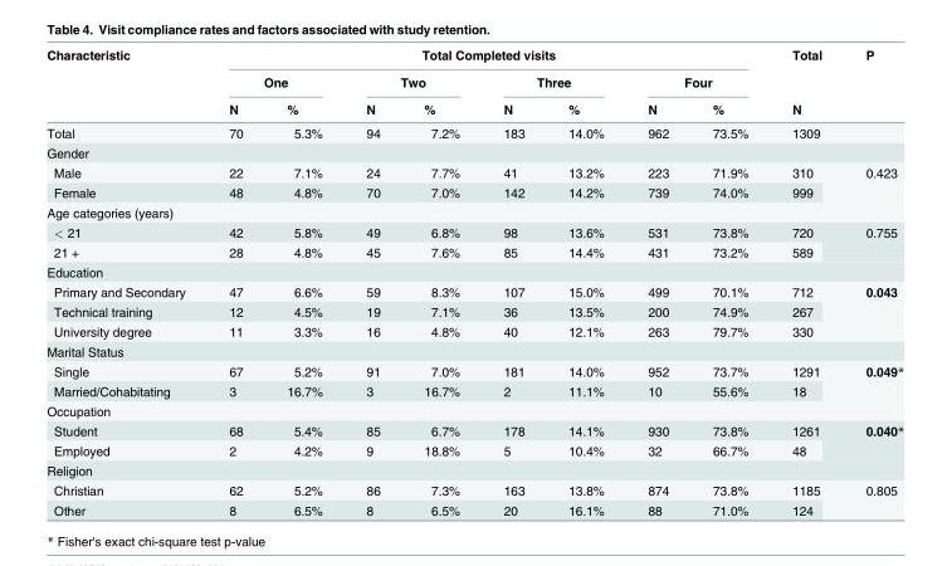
<table><thead><tr><td rowspan="3">Characteristic</td><td colspan="8">Total Completed visits</td><td rowspan="3">Total N</td><td rowspan="3">P</td></tr><tr><td colspan="2">One</td><td colspan="2">Two</td><td colspan="2">Three</td><td colspan="2">Four</td></tr><tr><td>N</td><td>%</td><td>N</td><td>%</td><td>N</td><td>%</td><td>N</td><td>%</td></tr></thead><tbody><tr><td>Total</td><td>70</td><td>5.3%</td><td>94</td><td>7.2%</td><td>183</td><td>14.0%</td><td>962</td><td>73.5%</td><td>1309</td><td></td></tr><tr><td colspan="11">Gender</td></tr><tr><td>Male</td><td>22</td><td>7.1%</td><td>24</td><td>7.7%</td><td>41</td><td>13.2%</td><td>223</td><td>71.9%</td><td>310</td><td rowspan="2">0.423</td></tr><tr><td>Female</td><td>48</td><td>4.8%</td><td>70</td><td>7.0%</td><td>142</td><td>14.2%</td><td>739</td><td>74.0%</td><td>999</td></tr><tr><td colspan="11">Age categories (years)</td></tr><tr><td>&lt; 21</td><td>42</td><td>5.8%</td><td>49</td><td>6.8%</td><td>98</td><td>13.6%</td><td>531</td><td>73.8%</td><td>720</td><td rowspan="2">0.755</td></tr><tr><td>21 +</td><td>28</td><td>4.8%</td><td>45</td><td>7.6%</td><td>85</td><td>14.4%</td><td>431</td><td>73.2%</td><td>589</td></tr><tr><td colspan="11">Education</td></tr><tr><td>Primary and Secondary</td><td>47</td><td>6.6%</td><td>59</td><td>8.3%</td><td>107</td><td>15.0%</td><td>499</td><td>70.1%</td><td>712</td><td rowspan="3">0.043</td></tr><tr><td>Technical training</td><td>12</td><td>4.5%</td><td>19</td><td>7.1%</td><td>36</td><td>13.5%</td><td>200</td><td>74.9%</td><td>267</td></tr><tr><td>University degree</td><td>11</td><td>3.3%</td><td>16</td><td>4.8%</td><td>40</td><td>12.1%</td><td>263</td><td>79.7%</td><td>330</td></tr><tr><td colspan="11">Marital Status</td></tr><tr><td>Single</td><td>67</td><td>5.2%</td><td>91</td><td>7.0%</td><td>181</td><td>14.0%</td><td>952</td><td>73.7%</td><td>1291</td><td rowspan="2">0.049*</td></tr><tr><td>Married/Cohabitating</td><td>3</td><td>16.7%</td><td>3</td><td>16.7%</td><td>2</td><td>11.1%</td><td>10</td><td>55.6%</td><td>18</td></tr><tr><td colspan="11">Occupation</td></tr><tr><td>Student</td><td>68</td><td>5.4%</td><td>85</td><td>6.7%</td><td>178</td><td>14.1%</td><td>930</td><td>73.8%</td><td>1261</td><td rowspan="2">0.040*</td></tr><tr><td>Employed</td><td>2</td><td>4.2%</td><td>9</td><td>18.8%</td><td>5</td><td>10.4%</td><td>32</td><td>66.7%</td><td>48</td></tr><tr><td colspan="11">Religion</td></tr><tr><td>Christian</td><td>62</td><td>5.2%</td><td>86</td><td>7.3%</td><td>163</td><td>13.8%</td><td>874</td><td>73.8%</td><td>1185</td><td rowspan="2">0.805</td></tr><tr><td>Other</td><td>8</td><td>6.5%</td><td>8</td><td>6.5%</td><td>20</td><td>16.1%</td><td>88</td><td>71.0%</td><td>124</td></tr></tbody></table>